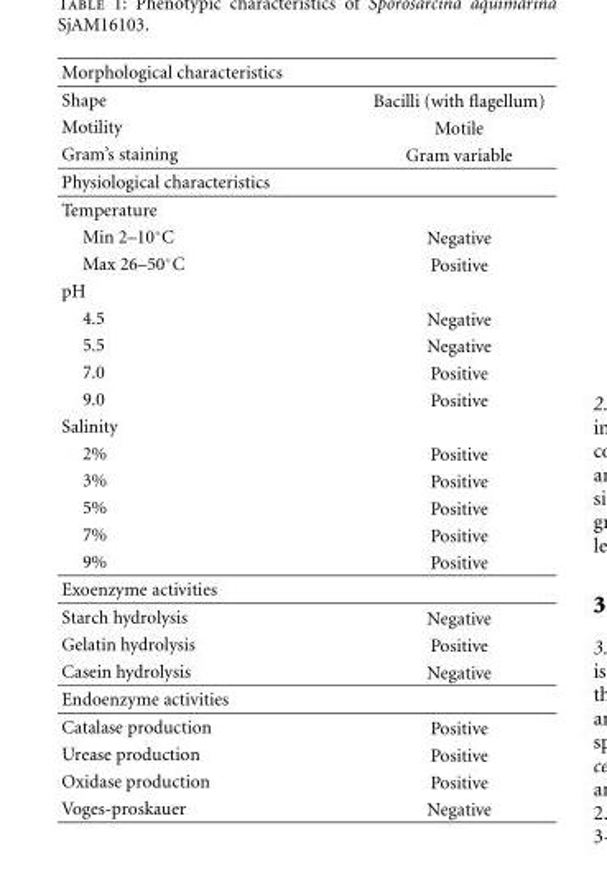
<table><thead><tr><td>Morphological characteristics</td><td></td></tr></thead><tbody><tr><td>Shape</td><td>Bacilli (with flagellum)</td></tr><tr><td>Motility</td><td>Motile</td></tr><tr><td>Gram’s staining</td><td>Gram variable</td></tr><tr><td colspan="2">Physiological characteristics</td></tr><tr><td colspan="2">Temperature</td></tr><tr><td>Min 2–10◦C</td><td>Negative</td></tr><tr><td>Max 26–50◦C</td><td>Positive</td></tr><tr><td colspan="2">pH</td></tr><tr><td>4.5</td><td>Negative</td></tr><tr><td>5.5</td><td>Negative</td></tr><tr><td>7.0</td><td>Positive</td></tr><tr><td>9.0</td><td>Positive</td></tr><tr><td colspan="2">Salinity</td></tr><tr><td>2%</td><td>Positive</td></tr><tr><td>3%</td><td>Positive</td></tr><tr><td>5%</td><td>Positive</td></tr><tr><td>7%</td><td>Positive</td></tr><tr><td>9%</td><td>Positive</td></tr><tr><td colspan="2">Exoenzyme activities</td></tr><tr><td>Starch hydrolysis</td><td>Negative</td></tr><tr><td>Gelatin hydrolysis</td><td>Positive</td></tr><tr><td>Casein hydrolysis</td><td>Negative</td></tr><tr><td colspan="2">Endoenzyme activities</td></tr><tr><td>Catalase production</td><td>Positive</td></tr><tr><td>Urease production</td><td>Positive</td></tr><tr><td>Oxidase production</td><td>Positive</td></tr><tr><td>Voges-proskauer</td><td>Negative</td></tr></tbody></table>